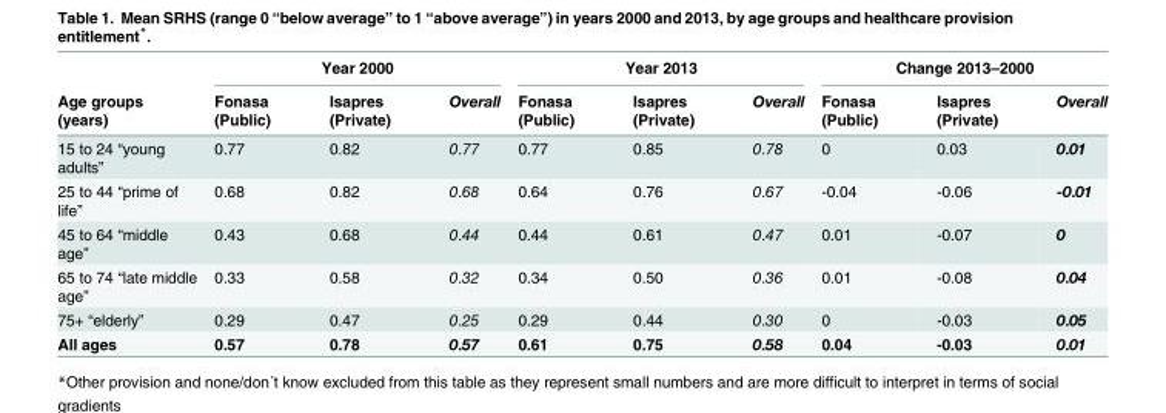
<table><thead><tr><td rowspan="2">Age groups (years)</td><td colspan="3">Year 2000</td><td colspan="3">Year 2013</td><td colspan="3">Change 2013–2000</td></tr><tr><td>Fonasa (Public)</td><td>Isapres (Private)</td><td>Overall</td><td>Fonasa (Public)</td><td>Isapres (Private)</td><td>Overall</td><td>Fonasa (Public)</td><td>Isapres (Private)</td><td>Overall</td></tr></thead><tbody><tr><td>15 to 24 “young adults”</td><td>0.77</td><td>0.82</td><td>0.77</td><td>0.77</td><td>0.85</td><td>0.78</td><td>0</td><td>0.03</td><td>0.01</td></tr><tr><td>25 to 44 “prime of life”</td><td>0.68</td><td>0.82</td><td>0.68</td><td>0.64</td><td>0.76</td><td>0.67</td><td>-0.04</td><td>-0.06</td><td>-0.01</td></tr><tr><td>45 to 64 “middle age”</td><td>0.43</td><td>0.68</td><td>0.44</td><td>0.44</td><td>0.61</td><td>0.47</td><td>0.01</td><td>-0.07</td><td>0</td></tr><tr><td>65 to 74 “late middle age”</td><td>0.33</td><td>0.58</td><td>0.32</td><td>0.34</td><td>0.50</td><td>0.36</td><td>0.01</td><td>-0.08</td><td>0.04</td></tr><tr><td>75+ “elderly”</td><td>0.29</td><td>0.47</td><td>0.25</td><td>0.29</td><td>0.44</td><td>0.30</td><td>0</td><td>-0.03</td><td>0.05</td></tr><tr><td>All ages</td><td>0.57</td><td>0.78</td><td>0.57</td><td>0.61</td><td>0.75</td><td>0.58</td><td>0.04</td><td>-0.03</td><td>0.01</td></tr></tbody></table>